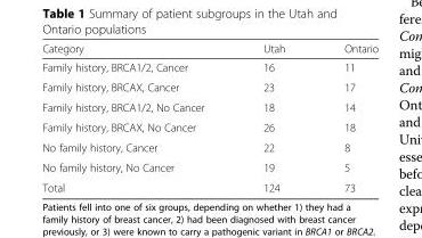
<table><thead><tr><td>Category</td><td>Utah</td><td>Ontario</td></tr></thead><tbody><tr><td>Family history, BRCA1/2, Cancer</td><td>16</td><td>11</td></tr><tr><td>Family history, BRCAX, Cancer</td><td>23</td><td>17</td></tr><tr><td>Family history, BRCA1/2, No Cancer</td><td>18</td><td>14</td></tr><tr><td>Family history, BRCAX, No Cancer</td><td>26</td><td>18</td></tr><tr><td>No family history, Cancer</td><td>22</td><td>8</td></tr><tr><td>No family history, No Cancer</td><td>19</td><td>5</td></tr><tr><td>Total</td><td>124</td><td>73</td></tr></tbody></table>